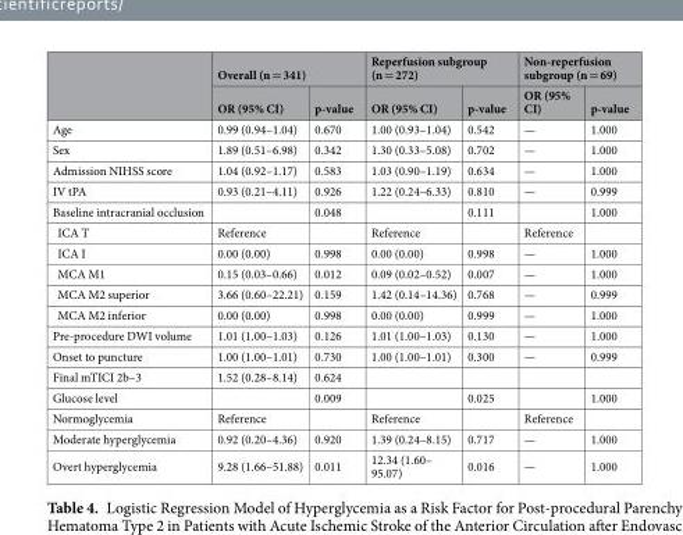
<table><thead><tr><td rowspan="2"></td><td colspan="2">Overall (n = 341)</td><td colspan="2">Reperfusion subgroup (n = 272)</td><td colspan="2">Non-reperfusion subgroup (n = 69)</td></tr><tr><td>OR (95% CI)</td><td>p-value</td><td>OR (95% CI)</td><td>p-value</td><td>OR (95% CI)</td><td>p-value</td></tr></thead><tbody><tr><td>Age</td><td>0.99 (0.94–1.04)</td><td>0.670</td><td>1.00 (0.93–1.04)</td><td>0.542</td><td>—</td><td>1.000</td></tr><tr><td>Sex</td><td>1.89 (0.51–6.98)</td><td>0.342</td><td>1.30 (0.33–5.08)</td><td>0.702</td><td>—</td><td>1.000</td></tr><tr><td>Admission NIHSS score</td><td>1.04 (0.92–1.17)</td><td>0.583</td><td>1.03 (0.90–1.19)</td><td>0.634</td><td>—</td><td>1.000</td></tr><tr><td>IV tPA</td><td>0.93 (0.21–4.11)</td><td>0.926</td><td>1.22 (0.24–6.33)</td><td>0.810</td><td>—</td><td>0.999</td></tr><tr><td>Baseline intracranial occlusion</td><td></td><td>0.048</td><td></td><td>0.111</td><td></td><td>1.000</td></tr><tr><td>ICA T</td><td>Reference</td><td></td><td>Reference</td><td></td><td>Reference</td><td></td></tr><tr><td>ICA I</td><td>0.00 (0.00)</td><td>0.998</td><td>0.00 (0.00)</td><td>0.998</td><td>—</td><td>1.000</td></tr><tr><td>MCA M1</td><td>0.15 (0.03–0.66)</td><td>0.012</td><td>0.09 (0.02–0.52)</td><td>0.007</td><td>—</td><td>1.000</td></tr><tr><td>MCA M2 superior</td><td>3.66 (0.60–22.21)</td><td>0.159</td><td>1.42 (0.14–14.36)</td><td>0.768</td><td>—</td><td>0.999</td></tr><tr><td>MCA M2 inferior</td><td>0.00 (0.00)</td><td>0.998</td><td>0.00 (0.00)</td><td>0.999</td><td>—</td><td>1.000</td></tr><tr><td>Pre-procedure DWI volume</td><td>1.01 (1.00–1.03)</td><td>0.126</td><td>1.01 (1.00–1.03)</td><td>0.130</td><td>—</td><td>1.000</td></tr><tr><td>Onset to puncture</td><td>1.00 (1.00–1.01)</td><td>0.730</td><td>1.00 (1.00–1.01)</td><td>0.300</td><td>—</td><td>0.999</td></tr><tr><td>Final mTICI 2b–3</td><td>1.52 (0.28–8.14)</td><td>0.624</td><td></td><td></td><td></td><td></td></tr><tr><td>Glucose level</td><td></td><td>0.009</td><td></td><td>0.025</td><td></td><td>1.000</td></tr><tr><td>Normoglycemia</td><td>Reference</td><td></td><td>Reference</td><td></td><td>Reference</td><td></td></tr><tr><td>Moderate hyperglycemia</td><td>0.92 (0.20–4.36)</td><td>0.920</td><td>1.39 (0.24–8.15)</td><td>0.717</td><td>—</td><td>1.000</td></tr><tr><td>Overt hyperglycemia</td><td>9.28 (1.66–51.88)</td><td>0.011</td><td>12.34 (1.60– 95.07)</td><td>0.016</td><td>—</td><td>1.000</td></tr></tbody></table>